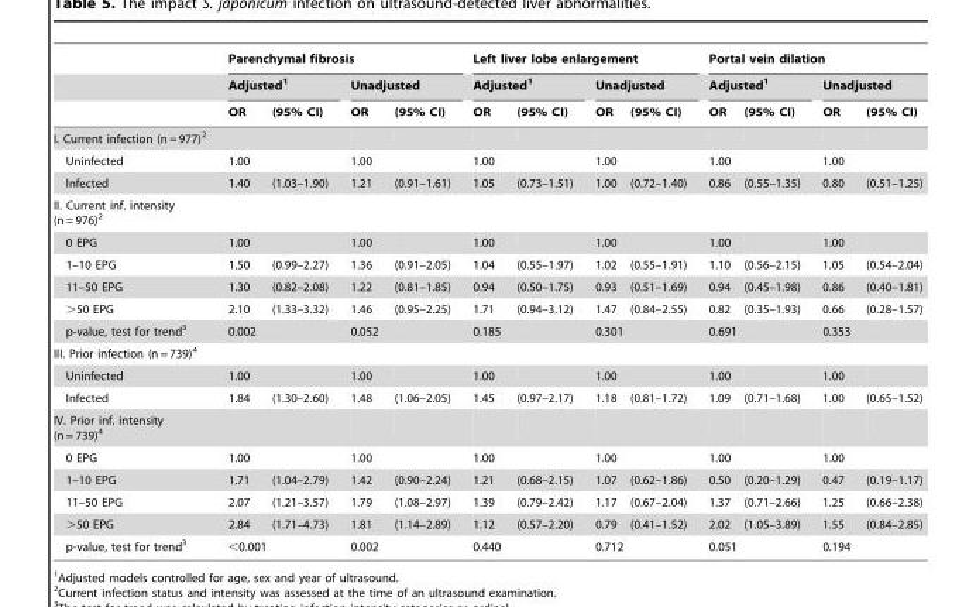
<table><thead><tr><td rowspan="3"></td><td colspan="4">Parenchymal fibrosis</td><td colspan="4">Left liver lobe enlargement</td><td colspan="4">Portal vein dilation</td></tr><tr><td colspan="2">Adjusted<sup>1</sup></td><td colspan="2">Unadjusted</td><td colspan="2">Adjusted<sup>1</sup></td><td colspan="2">Unadjusted</td><td colspan="2">Adjusted<sup>1</sup></td><td colspan="2">Unadjusted</td></tr><tr><td>OR</td><td>(95% CI)</td><td>OR</td><td>(95% CI)</td><td>OR</td><td>(95% CI)</td><td>OR</td><td>(95% CI)</td><td>OR</td><td>(95% CI)</td><td>OR</td><td>(95% CI)</td></tr></thead><tbody><tr><td colspan="13">I. Current infection (n = 977)<sup>2</sup></td></tr><tr><td>Uninfected</td><td>1.00</td><td></td><td>1.00</td><td></td><td>1.00</td><td></td><td>1.00</td><td></td><td>1.00</td><td></td><td>1.00</td><td></td></tr><tr><td>Infected</td><td>1.40</td><td>(1.03–1.90)</td><td>1.21</td><td>(0.91–1.61)</td><td>1.05</td><td>(0.73–1.51)</td><td>1.00</td><td>(0.72–1.40)</td><td>0.86</td><td>(0.55–1.35)</td><td>0.80</td><td>(0.51–1.25)</td></tr><tr><td colspan="13">II. Current inf. intensity (n = 976)<sup>2</sup></td></tr><tr><td>0 EPG</td><td>1.00</td><td></td><td>1.00</td><td></td><td>1.00</td><td></td><td>1.00</td><td></td><td>1.00</td><td></td><td>1.00</td><td></td></tr><tr><td>1–10 EPG</td><td>1.50</td><td>(0.99–2.27)</td><td>1.36</td><td>(0.91–2.05)</td><td>1.04</td><td>(0.55–1.97)</td><td>1.02</td><td>(0.55–1.91)</td><td>1.10</td><td>(0.56–2.15)</td><td>1.05</td><td>(0.54–2.04)</td></tr><tr><td>11–50 EPG</td><td>1.30</td><td>(0.82–2.08)</td><td>1.22</td><td>(0.81–1.85)</td><td>0.94</td><td>(0.50–1.75)</td><td>0.93</td><td>(0.51–1.69)</td><td>0.94</td><td>(0.45–1.98)</td><td>0.86</td><td>(0.40–1.81)</td></tr><tr><td>&gt;50 EPG</td><td>2.10</td><td>(1.33–3.32)</td><td>1.46</td><td>(0.95–2.25)</td><td>1.71</td><td>(0.94–3.12)</td><td>1.47</td><td>(0.84–2.55)</td><td>0.82</td><td>(0.35–1.93)</td><td>0.66</td><td>(0.28–1.57)</td></tr><tr><td>p-value, test for trend<sup>3</sup></td><td colspan="2">0.002</td><td colspan="2">0.052</td><td colspan="2">0.185</td><td colspan="2">0.301</td><td colspan="2">0.691</td><td colspan="2">0.353</td></tr><tr><td colspan="13">III. Prior infection (n = 739)<sup>4</sup></td></tr><tr><td>Uninfected</td><td>1.00</td><td></td><td>1.00</td><td></td><td>1.00</td><td></td><td>1.00</td><td></td><td>1.00</td><td></td><td>1.00</td><td></td></tr><tr><td>Infected</td><td>1.84</td><td>(1.30–2.60)</td><td>1.48</td><td>(1.06–2.05)</td><td>1.45</td><td>(0.97–2.17)</td><td>1.18</td><td>(0.81–1.72)</td><td>1.09</td><td>(0.71–1.68)</td><td>1.00</td><td>(0.65–1.52)</td></tr><tr><td colspan="13">IV. Prior inf. intensity (n = 739)<sup>4</sup></td></tr><tr><td>0 EPG</td><td>1.00</td><td></td><td>1.00</td><td></td><td>1.00</td><td></td><td>1.00</td><td></td><td>1.00</td><td></td><td>1.00</td><td></td></tr><tr><td>1–10 EPG</td><td>1.71</td><td>(1.04–2.79)</td><td>1.42</td><td>(0.90–2.24)</td><td>1.21</td><td>(0.68–2.15)</td><td>1.07</td><td>(0.62–1.86)</td><td>0.50</td><td>(0.20–1.29)</td><td>0.47</td><td>(0.19–1.17)</td></tr><tr><td>11–50 EPG</td><td>2.07</td><td>(1.21–3.57)</td><td>1.79</td><td>(1.08–2.97)</td><td>1.39</td><td>(0.79–2.42)</td><td>1.17</td><td>(0.67–2.04)</td><td>1.37</td><td>(0.71–2.66)</td><td>1.25</td><td>(0.66–2.38)</td></tr><tr><td>&gt;50 EPG</td><td>2.84</td><td>(1.71–4.73)</td><td>1.81</td><td>(1.14–2.89)</td><td>1.12</td><td>(0.57–2.20)</td><td>0.79</td><td>(0.41–1.52)</td><td>2.02</td><td>(1.05–3.89)</td><td>1.55</td><td>(0.84–2.85)</td></tr><tr><td>p-value, test for trend<sup>3</sup></td><td colspan="2">&lt;0.001</td><td colspan="2">0.002</td><td colspan="2">0.440</td><td colspan="2">0.712</td><td colspan="2">0.051</td><td colspan="2">0.194</td></tr></tbody></table>